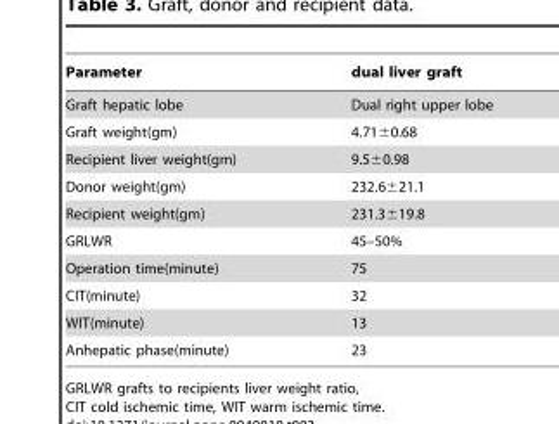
<table><thead><tr><td>Parameter</td><td>dual liver graft</td></tr></thead><tbody><tr><td>Graft hepatic lobe</td><td>Dual right upper lobe</td></tr><tr><td>Graft weight(gm)</td><td>4.71±0.68</td></tr><tr><td>Recipient liver weight(gm)</td><td>9.5±0.98</td></tr><tr><td>Donor weight(gm)</td><td>232.6±21.1</td></tr><tr><td>Recipient weight(gm)</td><td>231.3±19.8</td></tr><tr><td>GRLWR</td><td>45–50%</td></tr><tr><td>Operation time(minute)</td><td>75</td></tr><tr><td>CIT(minute)</td><td>32</td></tr><tr><td>WIT(minute)</td><td>13</td></tr><tr><td>Anhepatic phase(minute)</td><td>23</td></tr></tbody></table>